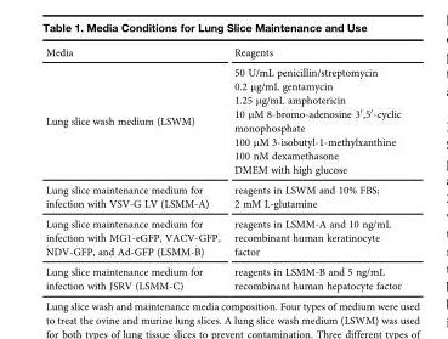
<table><thead><tr><td>Media</td><td>Reagents</td></tr></thead><tbody><tr><td>Lung slice wash medium (LSWM)</td><td>50 U/mL penicillin/streptomycin 0.2 μg/mL gentamycin 1.25 μg/mL amphotericin 10 μM 8-bromo-adenosine 3′,5′-cyclic monophosphate 100 μM 3-isobutyl-1-methylxanthine 100 nM dexamethasone DMEM with high glucose</td></tr><tr><td>Lung slice maintenance medium for infection with VSV-G LV (LSMM-A)</td><td>reagents in LSWM and 10% FBS; 2 mM L-glutamine</td></tr><tr><td>Lung slice maintenance medium for infection with MG1-eGFP, VACV-GFP, NDV-GFP, and Ad-GFP (LSMM-B)</td><td>reagents in LSMM-A and 10 ng/mL recombinant human keratinocyte factor</td></tr><tr><td>Lung slice maintenance medium for infection with JSRV (LSMM-C)</td><td>reagents in LSMM-B and 5 ng/mL recombinant human hepatocyte factor</td></tr></tbody></table>